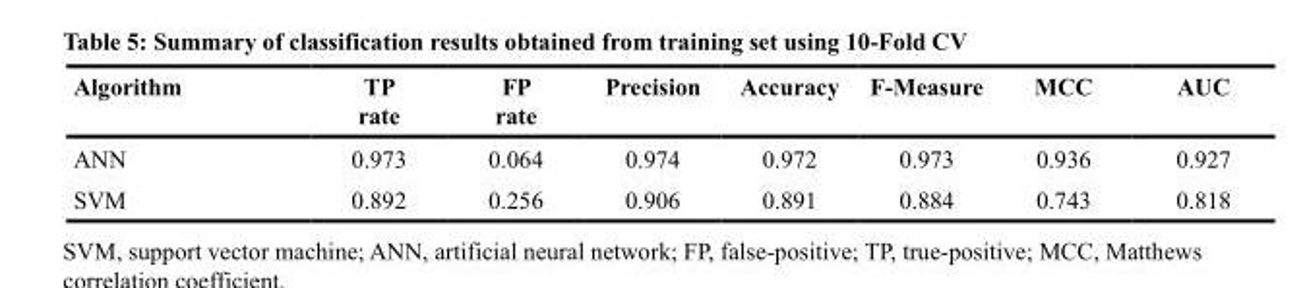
<table><thead><tr><td>Algorithm</td><td>TP rate</td><td>FP rate</td><td>Precision</td><td>Accuracy</td><td>F-Measure</td><td>MCC</td><td>AUC</td></tr></thead><tbody><tr><td>ANN</td><td>0.973</td><td>0.064</td><td>0.974</td><td>0.972</td><td>0.973</td><td>0.936</td><td>0.927</td></tr><tr><td>SVM</td><td>0.892</td><td>0.256</td><td>0.906</td><td>0.891</td><td>0.884</td><td>0.743</td><td>0.818</td></tr></tbody></table>